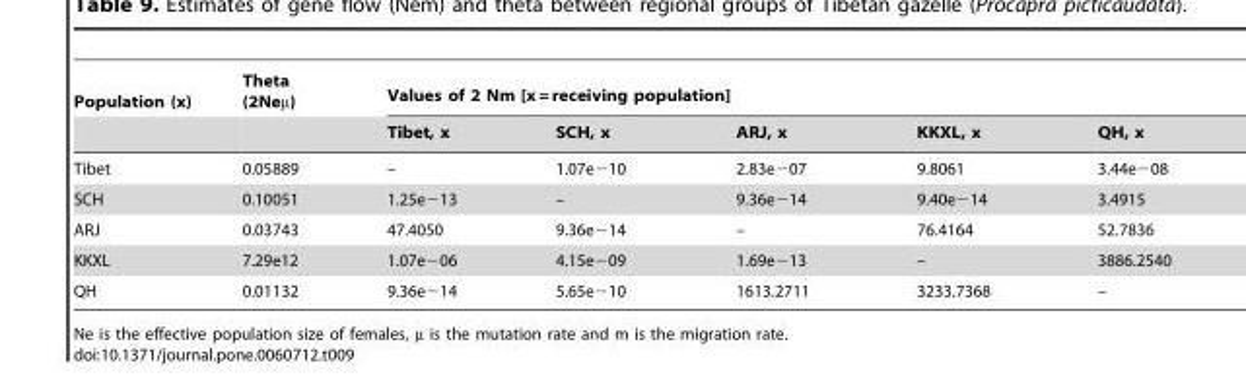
<table><thead><tr><td rowspan="2">Population (x)</td><td rowspan="2">Theta (2Neµ)</td><td colspan="5">Values of 2 Nm [x = receiving population]</td></tr><tr><td>Tibet, x</td><td>SCH, x</td><td>ARJ, x</td><td>KKXL, x</td><td>QH, x</td></tr></thead><tbody><tr><td>Tibet</td><td>0.05889</td><td>–</td><td>1.07e−10</td><td>2.83e−07</td><td>9.8061</td><td>3.44e−08</td></tr><tr><td>SCH</td><td>0.10051</td><td>1.25e−13</td><td>–</td><td>9.36e−14</td><td>9.40e−14</td><td>3.4915</td></tr><tr><td>ARJ</td><td>0.03743</td><td>47.4050</td><td>9.36e−14</td><td>–</td><td>76.4164</td><td>52.7836</td></tr><tr><td>KKXL</td><td>7.29e12</td><td>1.07e−06</td><td>4.15e−09</td><td>1.69e−13</td><td>–</td><td>3886.2540</td></tr><tr><td>QH</td><td>0.01132</td><td>9.36e−14</td><td>5.65e−10</td><td>1613.2711</td><td>3233.7368</td><td>–</td></tr></tbody></table>